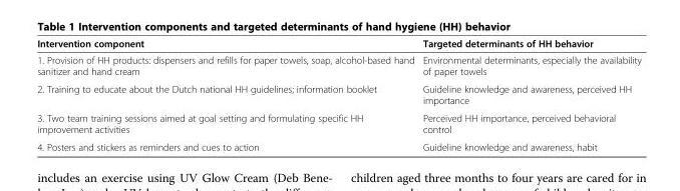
<table><thead><tr><td>Intervention component</td><td>Targeted determinants of HH behavior</td></tr></thead><tbody><tr><td>1. Provision of HH products: dispensers and refills for paper towels, soap, alcohol-based hand sanitizer and hand cream</td><td>Environmental determinants, especially the availability of paper towels</td></tr><tr><td>2. Training to educate about the Dutch national HH guidelines; information booklet</td><td>Guideline knowledge and awareness, perceived HH importance</td></tr><tr><td>3. Two team training sessions aimed at goal setting and formulating specific HH improvement activities</td><td>Perceived HH importance, perceived behavioral control</td></tr><tr><td>4. Posters and stickers as reminders and cues to action</td><td>Guideline knowledge and awareness, habit</td></tr></tbody></table>